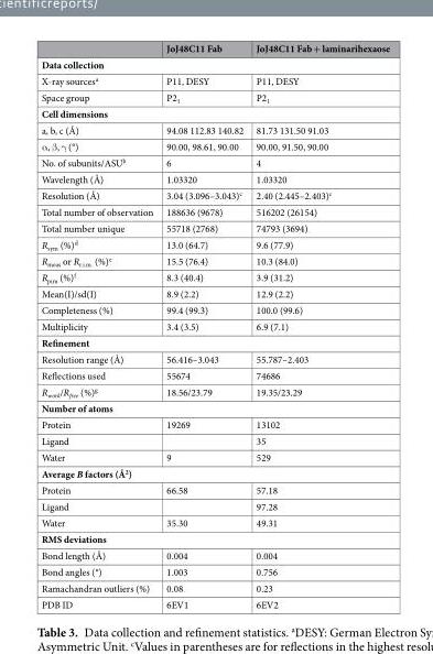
<table><thead><tr><td></td><td>JoJ48C11 Fab</td><td>JoJ48C11 Fab + laminarihexaose</td></tr></thead><tbody><tr><td colspan="3">Data collection</td></tr><tr><td>X-ray sources<sup>a</sup></td><td>P11, DESY</td><td>P11, DESY</td></tr><tr><td>Space group</td><td>P2<sub>1</sub></td><td>P2<sub>1</sub></td></tr><tr><td colspan="3">Cell dimensions</td></tr><tr><td>a, b, c (Å)</td><td>94.08 112.83 140.82</td><td>81.73 131.50 91.03</td></tr><tr><td>α, β, γ (°)</td><td>90.00, 98.61, 90.00</td><td>90.00, 91.50, 90.00</td></tr><tr><td>No. of subunits/ASU<sup>b</sup></td><td>6</td><td>4</td></tr><tr><td>Wavelength (Å)</td><td>1.03320</td><td>1.03320</td></tr><tr><td>Resolution (Å)</td><td>3.04 (3.096–3.043)<sup>c</sup></td><td>2.40 (2.445–2.403)<sup>c</sup></td></tr><tr><td>Total number of observation</td><td>188636 (9678)</td><td>516202 (26154)</td></tr><tr><td>Total number unique</td><td>55718 (2768)</td><td>74793 (3694)</td></tr><tr><td>R<sub>sym</sub> (%)<sup>d</sup></td><td>13.0 (64.7)</td><td>9.6 (77.9)</td></tr><tr><td>R<sub>meas</sub> or R<sub>r.i.m.</sub> (%)<sup>e</sup></td><td>15.5 (76.4)</td><td>10.3 (84.0)</td></tr><tr><td>R<sub>pim</sub> (%)<sup>f</sup></td><td>8.3 (40.4)</td><td>3.9 (31.2)</td></tr><tr><td>Mean(I)/sd(I)</td><td>8.9 (2.2)</td><td>12.9 (2.2)</td></tr><tr><td>Completeness (%)</td><td>99.4 (99.3)</td><td>100.0 (99.6)</td></tr><tr><td>Multiplicity</td><td>3.4 (3.5)</td><td>6.9 (7.1)</td></tr><tr><td colspan="3">Refinement</td></tr><tr><td>Resolution range (Å)</td><td>56.416–3.043</td><td>55.787–2.403</td></tr><tr><td>Reflections used</td><td>55674</td><td>74686</td></tr><tr><td>R<sub>work</sub>/R<sub>free</sub> (%)<sup>g</sup></td><td>18.56/23.79</td><td>19.35/23.29</td></tr><tr><td colspan="3">Number of atoms</td></tr><tr><td>Protein</td><td>19269</td><td>13102</td></tr><tr><td>Ligand</td><td></td><td>35</td></tr><tr><td>Water</td><td>9</td><td>529</td></tr><tr><td colspan="3">Average B factors (Å<sup>2</sup>)</td></tr><tr><td>Protein</td><td>66.58</td><td>57.18</td></tr><tr><td>Ligand</td><td></td><td>97.28</td></tr><tr><td>Water</td><td>35.30</td><td>49.31</td></tr><tr><td colspan="3">RMS deviations</td></tr><tr><td>Bond length (Å)</td><td>0.004</td><td>0.004</td></tr><tr><td>Bond angles (°)</td><td>1.003</td><td>0.756</td></tr><tr><td>Ramachandran outliers (%)</td><td>0.08</td><td>0.23</td></tr><tr><td>PDB ID</td><td>6EV1</td><td>6EV2</td></tr></tbody></table>